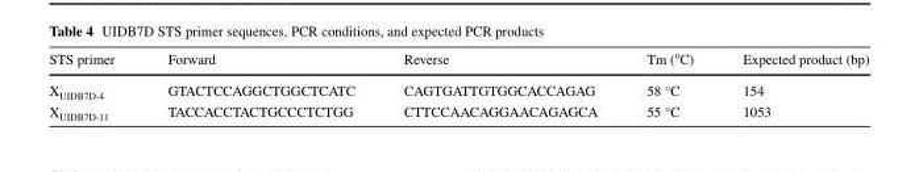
<table><thead><tr><td>STS primer</td><td>Forward</td><td>Reverse</td><td>Tm (<sup>o</sup>C)</td><td>Expected product (bp)</td></tr></thead><tbody><tr><td>X<sub>UIDB7D-4</sub></td><td>GTACTCCAGGCTGGCTCATC</td><td>CAGTGATTGTGGCACCAGAG</td><td>58 °C</td><td>154</td></tr><tr><td>X<sub>UIDB7D-11</sub></td><td>TACCACCTACTGCCCTCTGG</td><td>CTTCCAACAGGAACAGAGCA</td><td>55 °C</td><td>1053</td></tr></tbody></table>